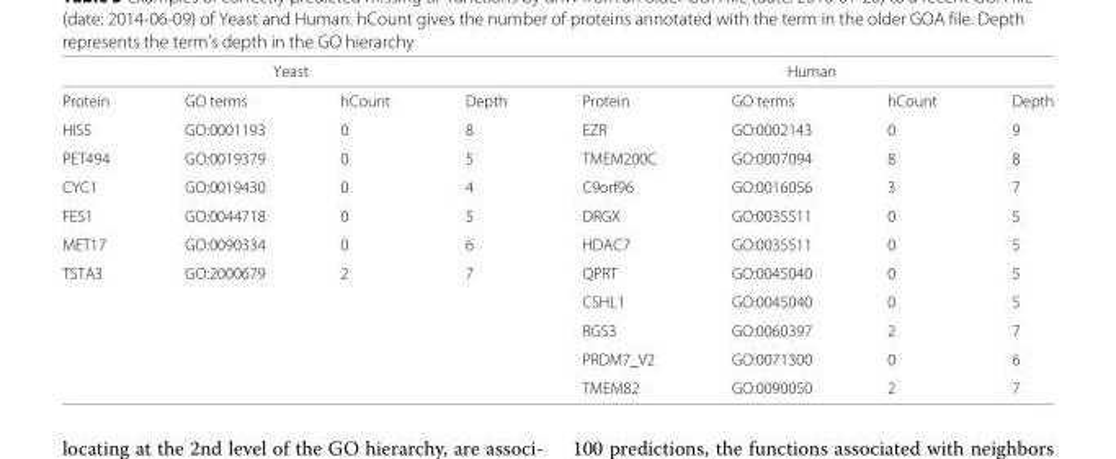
<table><thead><tr><td colspan="4">Yeast</td><td colspan="4">Human</td></tr><tr><td>Protein</td><td>GO terms</td><td>hCount</td><td>Depth</td><td>Protein</td><td>GO terms</td><td>hCount</td><td>Depth</td></tr></thead><tbody><tr><td>HIS5</td><td>GO:0001193</td><td>0</td><td>8</td><td>EZR</td><td>GO:0002143</td><td>0</td><td>9</td></tr><tr><td>PET494</td><td>GO:0019379</td><td>0</td><td>5</td><td>TMEM200C</td><td>GO:0007094</td><td>8</td><td>8</td></tr><tr><td>CYC1</td><td>GO:0019430</td><td>0</td><td>4</td><td>C9orf96</td><td>GO:0016056</td><td>3</td><td>7</td></tr><tr><td>FES1</td><td>GO:0044718</td><td>0</td><td>5</td><td>DRGX</td><td>GO:0035511</td><td>0</td><td>5</td></tr><tr><td>MET17</td><td>GO:0090334</td><td>0</td><td>6</td><td>HDAC7</td><td>GO:0035511</td><td>0</td><td>5</td></tr><tr><td rowspan="5">TSTA3</td><td>GO:2000679</td><td>2</td><td>7</td><td>QPRT</td><td>GO:0045040</td><td>0</td><td>5</td></tr><tr><td></td><td></td><td></td><td>CSHL1</td><td>GO:0045040</td><td>0</td><td>5</td></tr><tr><td></td><td></td><td></td><td>RGS3</td><td>GO:0060397</td><td>2</td><td>7</td></tr><tr><td></td><td></td><td></td><td>PRDM7_V2</td><td>GO:0071300</td><td>0</td><td>6</td></tr><tr><td></td><td></td><td></td><td>TMEM82</td><td>GO:0090050</td><td>2</td><td>7</td></tr></tbody></table>